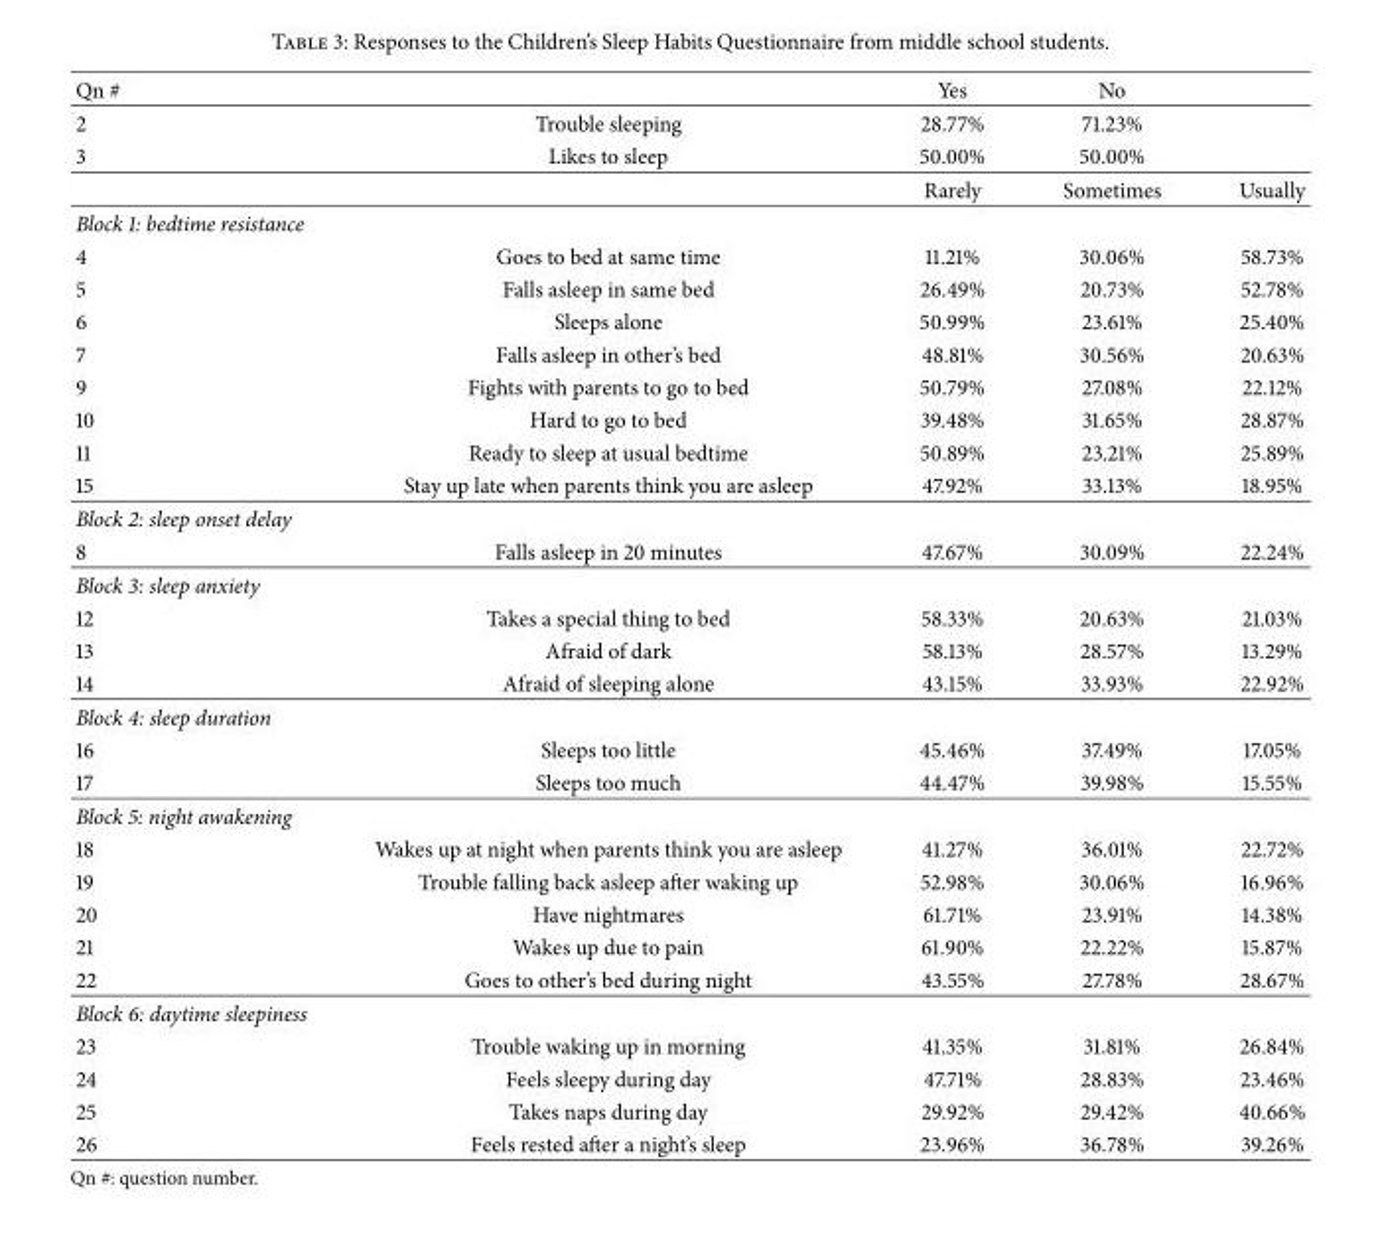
<table><thead><tr><td>Qn #</td><td></td><td>Yes</td><td>No</td><td></td></tr></thead><tbody><tr><td>2</td><td>Trouble sleeping</td><td>28.77%</td><td>71.23%</td><td></td></tr><tr><td rowspan="2">3</td><td>Likes to sleep</td><td>50.00%</td><td>50.00%</td><td></td></tr><tr><td></td><td>Rarely</td><td>Sometimes</td><td>Usually</td></tr><tr><td colspan="5">Block 1: bedtime resistance</td></tr><tr><td>4</td><td>Goes to bed at same time</td><td>11.21%</td><td>30.06%</td><td>58.73%</td></tr><tr><td>5</td><td>Falls asleep in same bed</td><td>26.49%</td><td>20.73%</td><td>52.78%</td></tr><tr><td>6</td><td>Sleeps alone</td><td>50.99%</td><td>23.61%</td><td>25.40%</td></tr><tr><td>7</td><td>Falls asleep in other’s bed</td><td>48.81%</td><td>30.56%</td><td>20.63%</td></tr><tr><td>9</td><td>Fights with parents to go to bed</td><td>50.79%</td><td>27.08%</td><td>22.12%</td></tr><tr><td>10</td><td>Hard to go to bed</td><td>39.48%</td><td>31.65%</td><td>28.87%</td></tr><tr><td>11</td><td>Ready to sleep at usual bedtime</td><td>50.89%</td><td>23.21%</td><td>25.89%</td></tr><tr><td>15</td><td>Stay up late when parents think you are asleep</td><td>47.92%</td><td>33.13%</td><td>18.95%</td></tr><tr><td colspan="5">Block 2: sleep onset delay</td></tr><tr><td>8</td><td>Falls asleep in 20 minutes</td><td>47.67%</td><td>30.09%</td><td>22.24%</td></tr><tr><td colspan="5">Block 3: sleep anxiety</td></tr><tr><td>12</td><td>Takes a special thing to bed</td><td>58.33%</td><td>20.63%</td><td>21.03%</td></tr><tr><td>13</td><td>Afraid of dark</td><td>58.13%</td><td>28.57%</td><td>13.29%</td></tr><tr><td>14</td><td>Afraid of sleeping alone</td><td>43.15%</td><td>33.93%</td><td>22.92%</td></tr><tr><td colspan="5">Block 4: sleep duration</td></tr><tr><td>16</td><td>Sleeps too little</td><td>45.46%</td><td>37.49%</td><td>17.05%</td></tr><tr><td>17</td><td>Sleeps too much</td><td>44.47%</td><td>39.98%</td><td>15.55%</td></tr><tr><td colspan="5">Block 5: night awakening</td></tr><tr><td>18</td><td>Wakes up at night when parents think you are asleep</td><td>41.27%</td><td>36.01%</td><td>22.72%</td></tr><tr><td>19</td><td>Trouble falling back asleep after waking up</td><td>52.98%</td><td>30.06%</td><td>16.96%</td></tr><tr><td>20</td><td>Have nightmares</td><td>61.71%</td><td>23.91%</td><td>14.38%</td></tr><tr><td>21</td><td>Wakes up due to pain</td><td>61.90%</td><td>22.22%</td><td>15.87%</td></tr><tr><td>22</td><td>Goes to other’s bed during night</td><td>43.55%</td><td>27.78%</td><td>28.67%</td></tr><tr><td colspan="5">Block 6: daytime sleepiness</td></tr><tr><td>23</td><td>Trouble waking up in morning</td><td>41.35%</td><td>31.81%</td><td>26.84%</td></tr><tr><td>24</td><td>Feels sleepy during day</td><td>47.71%</td><td>28.83%</td><td>23.46%</td></tr><tr><td>25</td><td>Takes naps during day</td><td>29.92%</td><td>29.42%</td><td>40.66%</td></tr><tr><td>26</td><td>Feels rested after a night’s sleep</td><td>23.96%</td><td>36.78%</td><td>39.26%</td></tr></tbody></table>